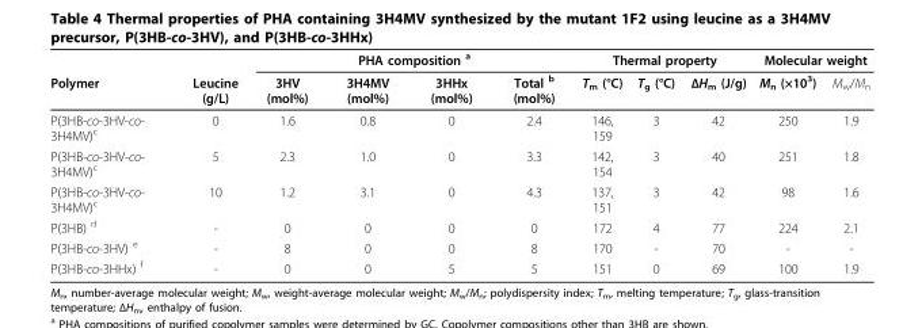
<table><thead><tr><td rowspan="2">Polymer</td><td rowspan="2">Leucine (g/L)</td><td colspan="4">PHA composition <sup>a</sup></td><td colspan="3">Thermal property</td><td colspan="2">Molecular weight</td></tr><tr><td>3HV (mol%)</td><td>3H4MV (mol%)</td><td>3HHx (mol%)</td><td>Total <sup>b</sup> (mol%)</td><td>T<sub>m</sub> (°C)</td><td>T<sub>g</sub> (°C)</td><td>ΔH<sub>m</sub> (J/g)</td><td>M<sub>n</sub> (×10<sup>3</sup>)</td><td>M<sub>w</sub>/M<sub>n</sub></td></tr></thead><tbody><tr><td>P(3HB-co-3HV-co- 3H4MV)<sup>c</sup></td><td>0</td><td>1.6</td><td>0.8</td><td>0</td><td>2.4</td><td>146, 159</td><td>3</td><td>42</td><td>250</td><td>1.9</td></tr><tr><td>P(3HB-co-3HV-co- 3H4MV)<sup>c</sup></td><td>5</td><td>2.3</td><td>1.0</td><td>0</td><td>3.3</td><td>142, 154</td><td>3</td><td>40</td><td>251</td><td>1.8</td></tr><tr><td>P(3HB-co-3HV-co- 3H4MV)<sup>c</sup></td><td>10</td><td>1.2</td><td>3.1</td><td>0</td><td>4.3</td><td>137, 151</td><td>3</td><td>42</td><td>98</td><td>1.6</td></tr><tr><td>P(3HB) <sup>d</sup></td><td>-</td><td>0</td><td>0</td><td>0</td><td>0</td><td>172</td><td>4</td><td>77</td><td>224</td><td>2.1</td></tr><tr><td>P(3HB-co-3HV) <sup>e</sup></td><td>-</td><td>8</td><td>0</td><td>0</td><td>8</td><td>170</td><td>-</td><td>70</td><td>-</td><td>-</td></tr><tr><td>P(3HB-co-3HHx) <sup>f</sup></td><td>-</td><td>0</td><td>0</td><td>5</td><td>5</td><td>151</td><td>0</td><td>69</td><td>100</td><td>1.9</td></tr></tbody></table>